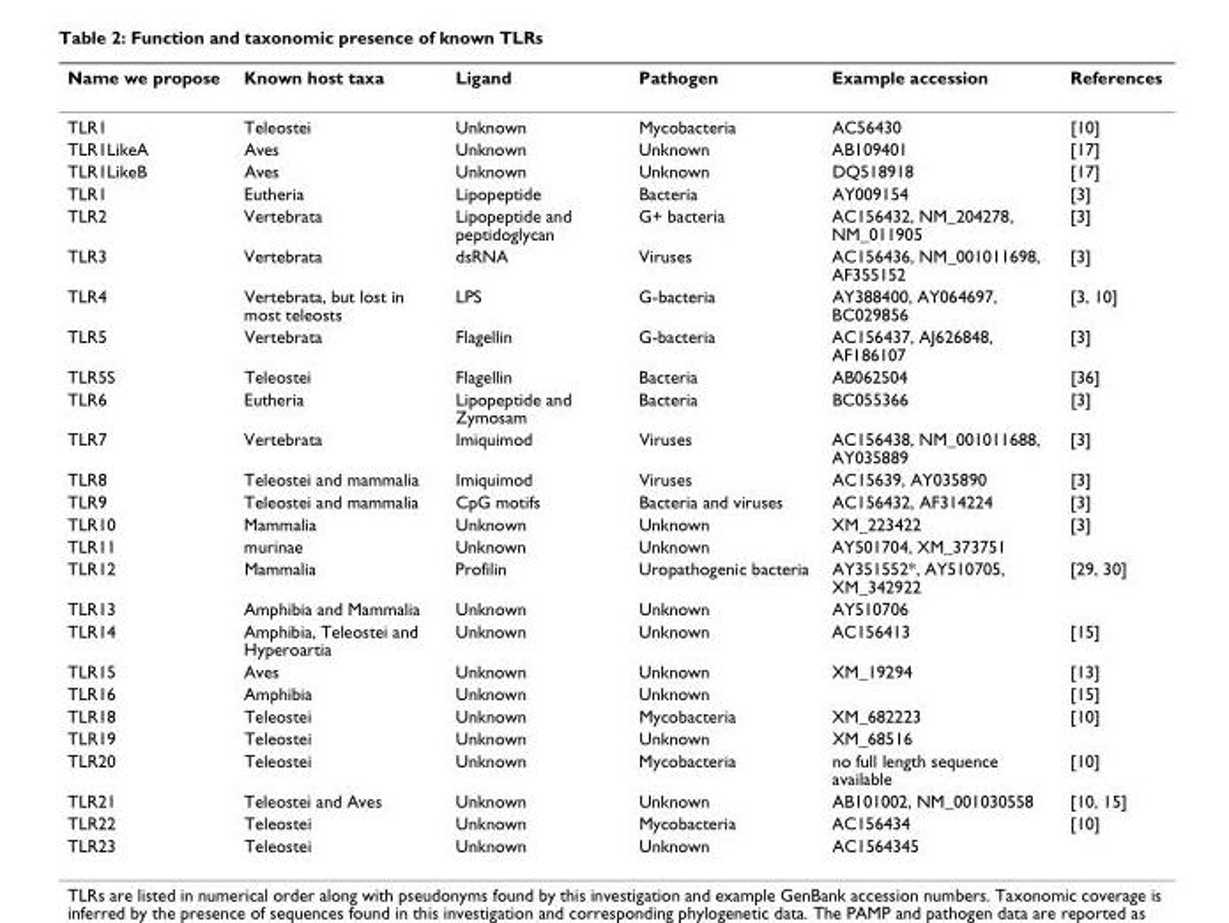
<table><thead><tr><td>Name we propose</td><td>Known host taxa</td><td>Ligand</td><td>Pathogen</td><td>Example accession</td><td>References</td></tr></thead><tbody><tr><td>TLR1</td><td>Teleostei</td><td>Unknown</td><td>Mycobacteria</td><td>AC56430</td><td>[10]</td></tr><tr><td>TLR1LikeA</td><td>Aves</td><td>Unknown</td><td>Unknown</td><td>AB109401</td><td>[17]</td></tr><tr><td>TLR1LikeB</td><td>Aves</td><td>Unknown</td><td>Unknown</td><td>DQ518918</td><td>[17]</td></tr><tr><td>TLR1</td><td>Eutheria</td><td>Lipopeptide</td><td>Bacteria</td><td>AY009154</td><td>[3]</td></tr><tr><td>TLR2</td><td>Vertebrata</td><td>Lipopeptide and peptidoglycan</td><td>G+ bacteria</td><td>AC156432, NM_204278, NM_011905</td><td>[3]</td></tr><tr><td>TLR3</td><td>Vertebrata</td><td>dsRNA</td><td>Viruses</td><td>AC156436, NM_001011698, AF355152</td><td>[3]</td></tr><tr><td>TLR4</td><td>Vertebrata, but lost in most teleosts</td><td>LPS</td><td>G-bacteria</td><td>AY388400, AY064697, BC029856</td><td>[3, 10]</td></tr><tr><td>TLR5</td><td>Vertebrata</td><td>Flagellin</td><td>G-bacteria</td><td>AC156437, AJ626848, AF186107</td><td>[3]</td></tr><tr><td>TLR5S</td><td>Teleostei</td><td>Flagellin</td><td>Bacteria</td><td>AB062504</td><td>[36]</td></tr><tr><td>TLR6</td><td>Eutheria</td><td>Lipopeptide and Zymosam</td><td>Bacteria</td><td>BC055366</td><td>[3]</td></tr><tr><td>TLR7</td><td>Vertebrata</td><td>Imiquimod</td><td>Viruses</td><td>AC156438, NM_001011688, AY035889</td><td>[3]</td></tr><tr><td>TLR8</td><td>Teleostei and mammalia</td><td>Imiquimod</td><td>Viruses</td><td>AC15639, AY035890</td><td>[3]</td></tr><tr><td>TLR9</td><td>Teleostei and mammalia</td><td>CpG motifs</td><td>Bacteria and viruses</td><td>AC156432, AF314224</td><td>[3]</td></tr><tr><td>TLR10</td><td>Mammalia</td><td>Unknown</td><td>Unknown</td><td>XM_223422</td><td>[3]</td></tr><tr><td>TLR11</td><td>murinae</td><td>Unknown</td><td>Unknown</td><td>AY501704, XM_373751</td><td></td></tr><tr><td>TLR12</td><td>Mammalia</td><td>Profilin</td><td>Uropathogenic bacteria</td><td>AY351552*, AY510705, XM_342922</td><td>[29, 30]</td></tr><tr><td>TLR13</td><td>Amphibia and Mammalia</td><td>Unknown</td><td>Unknown</td><td>AY510706</td><td></td></tr><tr><td>TLR14</td><td>Amphibia, Teleostei and Hyperoartia</td><td>Unknown</td><td>Unknown</td><td>AC156413</td><td>[15]</td></tr><tr><td>TLR15</td><td>Aves</td><td>Unknown</td><td>Unknown</td><td>XM_19294</td><td>[13]</td></tr><tr><td>TLR16</td><td>Amphibia</td><td>Unknown</td><td>Unknown</td><td></td><td>[15]</td></tr><tr><td>TLR18</td><td>Teleostei</td><td>Unknown</td><td>Mycobacteria</td><td>XM_682223</td><td>[10]</td></tr><tr><td>TLR19</td><td>Teleostei</td><td>Unknown</td><td>Unknown</td><td>XM_68516</td><td></td></tr><tr><td>TLR20</td><td>Teleostei</td><td>Unknown</td><td>Mycobacteria</td><td>no full length sequence available</td><td>[10]</td></tr><tr><td>TLR21</td><td>Teleostei and Aves</td><td>Unknown</td><td>Unknown</td><td>AB101002, NM_001030558</td><td>[10, 15]</td></tr><tr><td>TLR22</td><td>Teleostei</td><td>Unknown</td><td>Mycobacteria</td><td>AC156434</td><td>[10]</td></tr><tr><td>TLR23</td><td>Teleostei</td><td>Unknown</td><td>Unknown</td><td>AC1564345</td><td></td></tr></tbody></table>